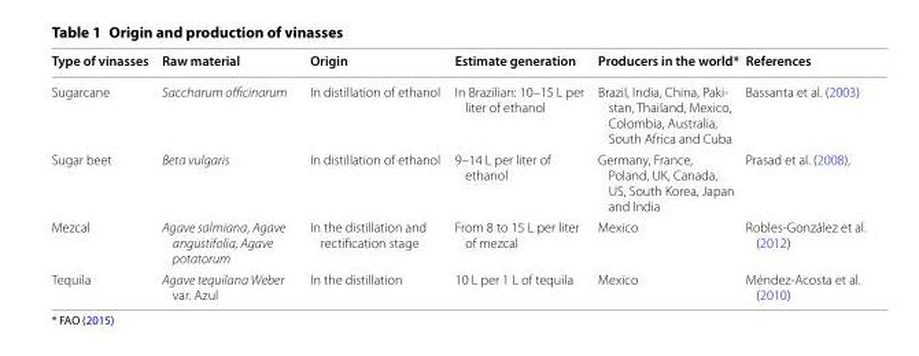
<table><thead><tr><td>Type of vinasses</td><td>Raw material</td><td>Origin</td><td>Estimate generation</td><td>Producers in the world*</td><td>References</td></tr></thead><tbody><tr><td>Sugarcane</td><td>Saccharum officinarum</td><td>In distillation of ethanol</td><td>In Brazilian: 10–15 L per liter of ethanol</td><td>Brazil, India, China, Paki‑ stan, Thailand, Mexico, Colombia, Australia, South Africa and Cuba</td><td>Bassanta et al. (2003)</td></tr><tr><td>Sugar beet</td><td>Beta vulgaris</td><td>In distillation of ethanol</td><td>9–14 L per liter of ethanol</td><td>Germany, France, Poland, UK, Canada, US, South Korea, Japan and India</td><td>Prasad et al. (2008),</td></tr><tr><td>Mezcal</td><td>Agave salmiana, Agave angustifolia, Agave potatorum</td><td>In the distillation and rectification stage</td><td>From 8 to 15 L per liter of mezcal</td><td>Mexico</td><td>Robles‑González et al. (2012)</td></tr><tr><td>Tequila</td><td>Agave tequilana Weber var. Azul</td><td>In the distillation</td><td>10 L per 1 L of tequila</td><td>Mexico</td><td>Méndez‑Acosta et al. (2010)</td></tr></tbody></table>